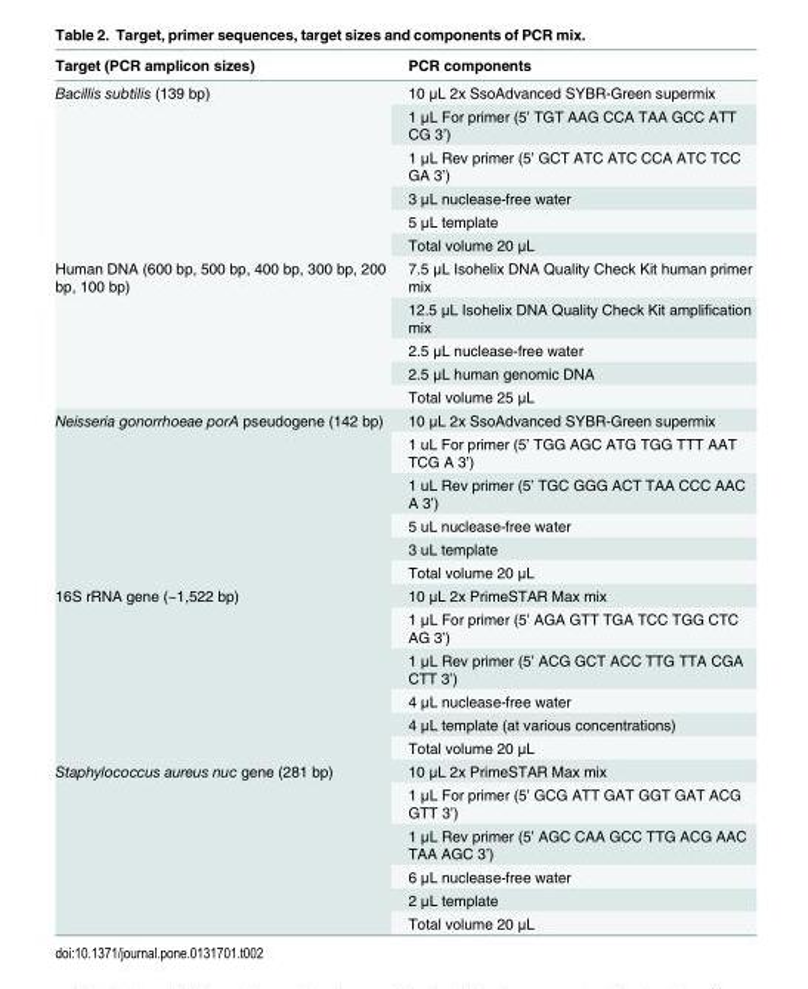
<table><thead><tr><td>Target (PCR amplicon sizes)</td><td>PCR components</td></tr></thead><tbody><tr><td rowspan="6">Bacillis subtilis (139 bp)</td><td>10 μL 2x SsoAdvanced SYBR-Green supermix</td></tr><tr><td>1 μL For primer (5’ TGT AAG CCA TAA GCC ATT CG 3’)</td></tr><tr><td>1 μL Rev primer (5’ GCT ATC ATC CCA ATC TCC GA 3’)</td></tr><tr><td>3 μL nuclease-free water</td></tr><tr><td>5 μL template</td></tr><tr><td>Total volume 20 μL</td></tr><tr><td rowspan="5">Human DNA (600 bp, 500 bp, 400 bp, 300 bp, 200 bp, 100 bp)</td><td>7.5 μL Isohelix DNA Quality Check Kit human primer mix</td></tr><tr><td>12.5 μL Isohelix DNA Quality Check Kit amplification mix</td></tr><tr><td>2.5 μL nuclease-free water</td></tr><tr><td>2.5 μL human genomic DNA</td></tr><tr><td>Total volume 25 μL</td></tr><tr><td rowspan="6">Neisseria gonorrhoeae porA pseudogene (142 bp)</td><td>10 μL 2x SsoAdvanced SYBR-Green supermix</td></tr><tr><td>1 uL For primer (5’ TGG AGC ATG TGG TTT AAT TCG A 3’)</td></tr><tr><td>1 uL Rev primer (5’ TGC GGG ACT TAA CCC AAC A 3’)</td></tr><tr><td>5 uL nuclease-free water</td></tr><tr><td>3 uL template</td></tr><tr><td>Total volume 20 μL</td></tr><tr><td rowspan="6">16S rRNA gene (~1,522 bp)</td><td>10 μL 2x PrimeSTAR Max mix</td></tr><tr><td>1 μL For primer (5’ AGA GTT TGA TCC TGG CTC AG 3’)</td></tr><tr><td>1 μL Rev primer (5’ ACG GCT ACC TTG TTA CGA CTT 3’)</td></tr><tr><td>4 μL nuclease-free water</td></tr><tr><td>4 μL template (at various concentrations)</td></tr><tr><td>Total volume 20 μL</td></tr><tr><td rowspan="6">Staphylococcus aureus nuc gene (281 bp)</td><td>10 μL 2x PrimeSTAR Max mix</td></tr><tr><td>1 μL For primer (5’ GCG ATT GAT GGT GAT ACG GTT 3’)</td></tr><tr><td>1 μL Rev primer (5’ AGC CAA GCC TTG ACG AAC TAA AGC 3’)</td></tr><tr><td>6 μL nuclease-free water</td></tr><tr><td>2 μL template</td></tr><tr><td>Total volume 20 μL</td></tr></tbody></table>